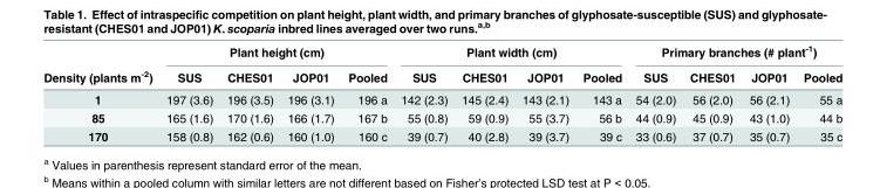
<table><thead><tr><td rowspan="2">Density (plants m<sup>-2</sup>)</td><td colspan="4">Plant height (cm)</td><td colspan="4">Plant width (cm)</td><td colspan="4">Primary branches (# plant<sup>-1</sup>)</td></tr><tr><td>SUS</td><td>CHES01</td><td>JOP01</td><td>Pooled</td><td>SUS</td><td>CHES01</td><td>JOP01</td><td>Pooled</td><td>SUS</td><td>CHES01</td><td>JOP01</td><td>Pooled</td></tr></thead><tbody><tr><td>1</td><td>197 (3.6)</td><td>196 (3.5)</td><td>196 (3.1)</td><td>196 a</td><td>142 (2.3)</td><td>145 (2.4)</td><td>143 (2.1)</td><td>143 a</td><td>54 (2.0)</td><td>56 (2.0)</td><td>56 (2.1)</td><td>55 a</td></tr><tr><td>85</td><td>165 (1.6)</td><td>170 (1.6)</td><td>166 (1.7)</td><td>167 b</td><td>55 (0.8)</td><td>59 (0.9)</td><td>55 (3.7)</td><td>56 b</td><td>44 (0.9)</td><td>45 (0.9)</td><td>43 (1.0)</td><td>44 b</td></tr><tr><td>170</td><td>158 (0.8)</td><td>162 (0.6)</td><td>160 (1.0)</td><td>160 c</td><td>39 (0.7)</td><td>40 (2.8)</td><td>39 (3.7)</td><td>39 c</td><td>33 (0.6)</td><td>37 (0.7)</td><td>35 (0.7)</td><td>35 c</td></tr></tbody></table>